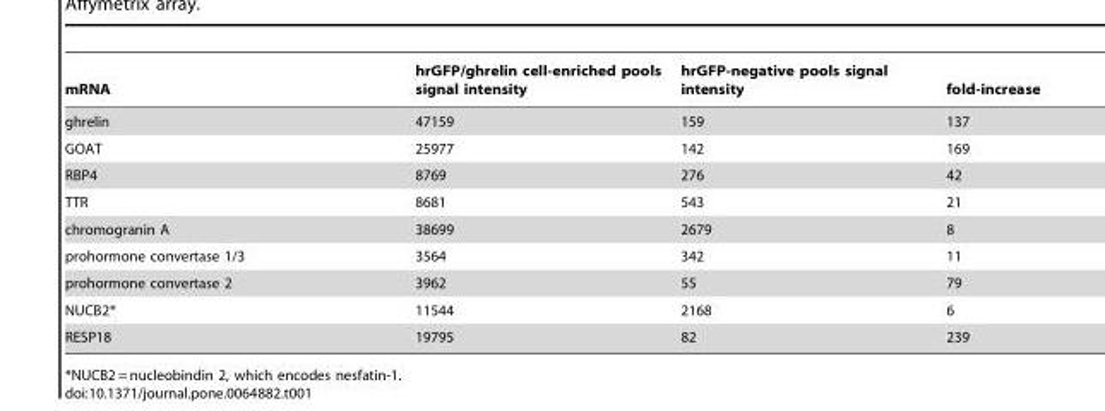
<table><thead><tr><td>mRNA</td><td>hrGFP/ghrelin cell-enriched pools signal intensity</td><td>hrGFP-negative pools signal intensity</td><td>fold-increase</td></tr></thead><tbody><tr><td>ghrelin</td><td>47159</td><td>159</td><td>137</td></tr><tr><td>GOAT</td><td>25977</td><td>142</td><td>169</td></tr><tr><td>RBP4</td><td>8769</td><td>276</td><td>42</td></tr><tr><td>TTR</td><td>8681</td><td>543</td><td>21</td></tr><tr><td>chromogranin A</td><td>38699</td><td>2679</td><td>8</td></tr><tr><td>prohormone convertase 1/3</td><td>3564</td><td>342</td><td>11</td></tr><tr><td>prohormone convertase 2</td><td>3962</td><td>55</td><td>79</td></tr><tr><td>NUCB2*</td><td>11544</td><td>2168</td><td>6</td></tr><tr><td>RESP18</td><td>19795</td><td>82</td><td>239</td></tr></tbody></table>